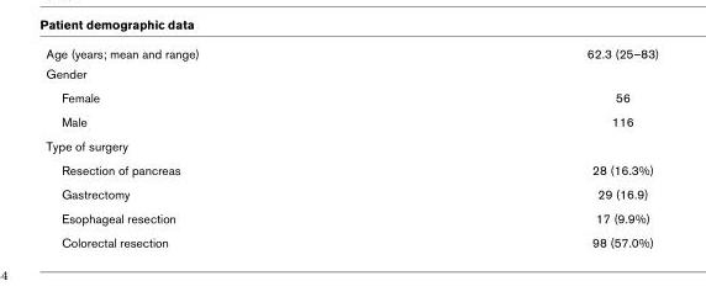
<table><tbody><tr><td>Age (years; mean and range)</td><td>62.3 (25–83)</td></tr><tr><td colspan="2">Gender</td></tr><tr><td>Female</td><td>56</td></tr><tr><td>Male</td><td>116</td></tr><tr><td colspan="2">Type of surgery</td></tr><tr><td>Resection of pancreas</td><td>28 (16.3%)</td></tr><tr><td>Gastrectomy</td><td>29 (16.9)</td></tr><tr><td>Esophageal resection</td><td>17 (9.9%)</td></tr><tr><td>Colorectal resection</td><td>98 (57.0%)</td></tr></tbody></table>